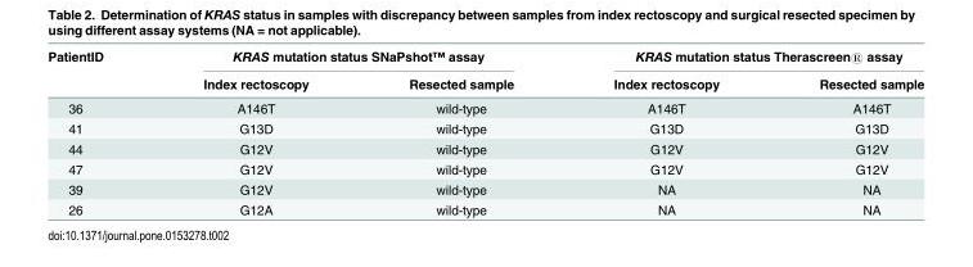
<table><thead><tr><td rowspan="2">PatientID</td><td colspan="2">KRAS mutation status SNaPshot™ assay</td><td colspan="2">KRAS mutation status Therascreen® assay</td></tr><tr><td>Index rectoscopy</td><td>Resected sample</td><td>Index rectoscopy</td><td>Resected sample</td></tr></thead><tbody><tr><td>36</td><td>A146T</td><td>wild-type</td><td>A146T</td><td>A146T</td></tr><tr><td>41</td><td>G13D</td><td>wild-type</td><td>G13D</td><td>G13D</td></tr><tr><td>44</td><td>G12V</td><td>wild-type</td><td>G12V</td><td>G12V</td></tr><tr><td>47</td><td>G12V</td><td>wild-type</td><td>G12V</td><td>G12V</td></tr><tr><td>39</td><td>G12V</td><td>wild-type</td><td>NA</td><td>NA</td></tr><tr><td>26</td><td>G12A</td><td>wild-type</td><td>NA</td><td>NA</td></tr></tbody></table>